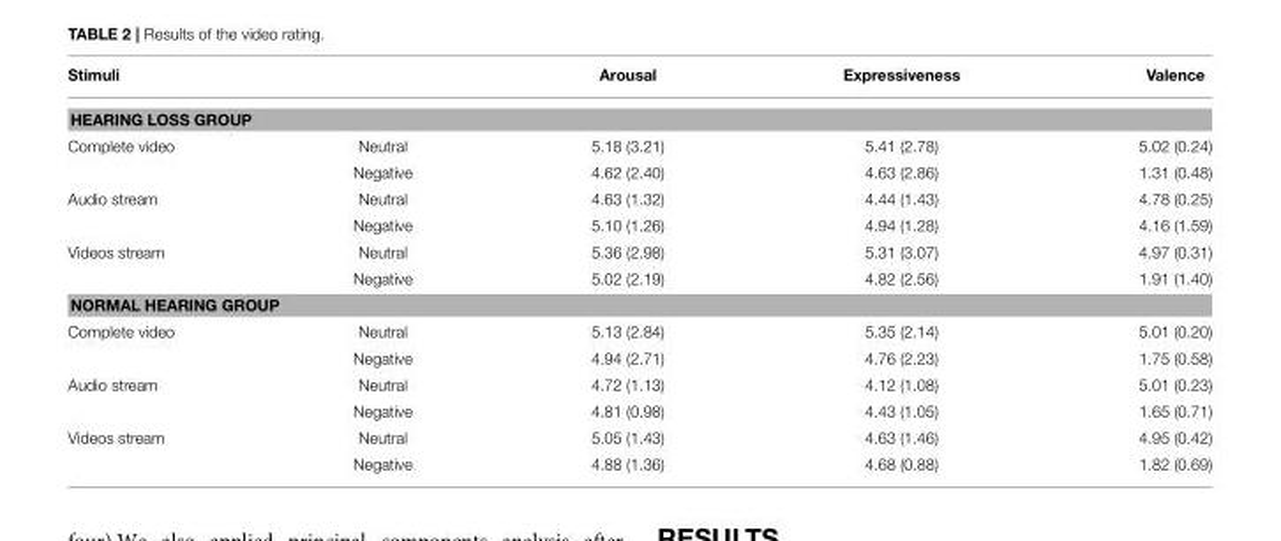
<table><thead><tr><td>Stimuli</td><td></td><td>Arousal</td><td>Expressiveness</td><td>Valence</td></tr></thead><tbody><tr><td colspan="5">HEARING LOSS GROUP</td></tr><tr><td rowspan="2">Complete video</td><td>Neutral</td><td>5.18 (3.21)</td><td>5.41 (2.78)</td><td>5.02 (0.24)</td></tr><tr><td>Negative</td><td>4.62 (2.40)</td><td>4.63 (2.86)</td><td>1.31 (0.48)</td></tr><tr><td rowspan="2">Audio stream</td><td>Neutral</td><td>4.63 (1.32)</td><td>4.44 (1.43)</td><td>4.78 (0.25)</td></tr><tr><td>Negative</td><td>5.10 (1.26)</td><td>4.94 (1.28)</td><td>4.16 (1.59)</td></tr><tr><td rowspan="2">Videos stream</td><td>Neutral</td><td>5.36 (2.98)</td><td>5.31 (3.07)</td><td>4.97 (0.31)</td></tr><tr><td>Negative</td><td>5.02 (2.19)</td><td>4.82 (2.56)</td><td>1.91 (1.40)</td></tr><tr><td colspan="5">NORMAL HEARING GROUP</td></tr><tr><td rowspan="2">Complete video</td><td>Neutral</td><td>5.13 (2.84)</td><td>5.35 (2.14)</td><td>5.01 (0.20)</td></tr><tr><td>Negative</td><td>4.94 (2.71)</td><td>4.76 (2.23)</td><td>1.75 (0.58)</td></tr><tr><td rowspan="2">Audio stream</td><td>Neutral</td><td>4.72 (1.13)</td><td>4.12 (1.08)</td><td>5.01 (0.23)</td></tr><tr><td>Negative</td><td>4.81 (0.98)</td><td>4.43 (1.05)</td><td>1.65 (0.71)</td></tr><tr><td rowspan="2">Videos stream</td><td>Neutral</td><td>5.05 (1.43)</td><td>4.63 (1.46)</td><td>4.95 (0.42)</td></tr><tr><td>Negative</td><td>4.88 (1.36)</td><td>4.68 (0.88)</td><td>1.82 (0.69)</td></tr></tbody></table>